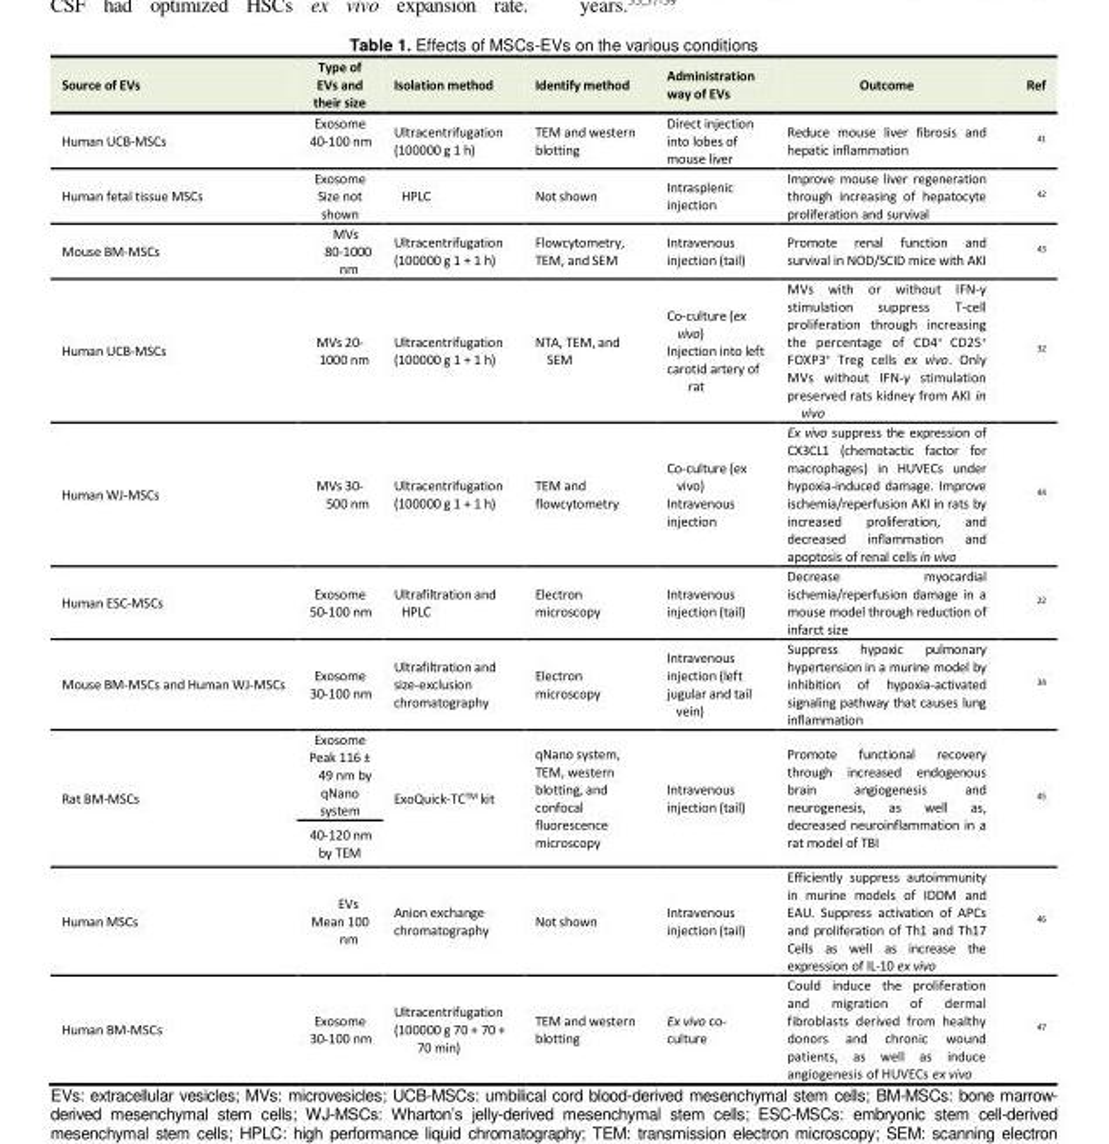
<table><tbody><tr><td>Source of EVs</td><td>Type of EVs and their size</td><td>Isolation method</td><td>Identify method</td><td>Administration way of EVs</td><td>Outcome</td><td>Ref</td></tr><tr><td>Human UCB-MSCs</td><td>Exosome 40-100 nm</td><td>Ultracentrifugation (100000 g 1 h)</td><td>TEM and western blotting</td><td>Direct injection into lobes of mouse liver</td><td>Reduce mouse liver fibrosis and hepatic inflammation</td><td><sup>41</sup></td></tr><tr><td>Human fetal tissue MSCs</td><td>Exosome Size not shown</td><td>HPLC</td><td>Not shown</td><td>Intrasplenic injection</td><td>Improve mouse liver regeneration through increasing of hepatocyte proliferation and survival</td><td><sup>42</sup></td></tr><tr><td>Mouse BM-MSCs</td><td>MVs 80-1000 nm</td><td>Ultracentrifugation (100000 g 1 + 1 h)</td><td>Flowcytometry, TEM, and SEM</td><td>Intravenous injection (tail)</td><td>Promote renal function and survival in NOD/SCID mice with AKI</td><td><sup>43</sup></td></tr><tr><td>Human UCB-MSCs</td><td>MVs 20- 1000 nm</td><td>Ultracentrifugation (100000 g 1 + 1 h)</td><td>NTA, TEM, and SEM</td><td>Co-culture (ex vivo) Injection into left carotid artery of rat</td><td>MVs with or without IFN-γ stimulation suppress T-cell proliferation through increasing the percentage of CD4<sup>+</sup> CD25<sup>+</sup> FOXP3<sup>+</sup> Treg cells ex vivo. Only MVs without IFN-γ stimulation preserved rats kidney from AKI in vivo</td><td><sup>32</sup></td></tr><tr><td>Human WJ-MSCs</td><td>MVs 30- 500 nm</td><td>Ultracentrifugation (100000 g 1 + 1 h)</td><td>TEM and flowcytometry</td><td>Co-culture (ex vivo) Intravenous injection</td><td>Ex vivo suppress the expression of CX3CL1 (chemotactic factor for macrophages) in HUVECs under hypoxia-induced damage. Improve ischemia/reperfusion AKI in rats by increased proliferation, and decreased inflammation and apoptosis of renal cells in vivo</td><td><sup>44</sup></td></tr><tr><td>Human ESC-MSCs</td><td>Exosome 50-100 nm</td><td>Ultrafiltration and HPLC</td><td>Electron microscopy</td><td>Intravenous injection (tail)</td><td>Decrease myocardial ischemia/reperfusion damage in a mouse model through reduction of infarct size</td><td><sup>22</sup></td></tr><tr><td>Mouse BM-MSCs and Human WJ-MSCs</td><td>Exosome 30-100 nm</td><td>Ultrafiltration and size-exclusion chromatography</td><td>Electron microscopy</td><td>Intravenous injection (left jugular and tail vein)</td><td>Suppress hypoxic pulmonary hypertension in a murine model by inhibition of hypoxia-activated signaling pathway that causes lung inflammation</td><td><sup>34</sup></td></tr><tr><td rowspan="2">Rat BM-MSCs</td><td>Exosome Peak 116 ± 49 nm by qNano system</td><td rowspan="2">ExoQuick-TC<sup>TM</sup> kit</td><td rowspan="2">qNano system, TEM, western blotting, and confocal fluorescence microscopy</td><td rowspan="2">Intravenous injection (tail)</td><td rowspan="2">Promote functional recovery through increased endogenous brain angiogenesis and neurogenesis, as well as, decreased neuroinflammation in a rat model of TBI</td><td rowspan="2"><sup>45</sup></td></tr><tr><td>40-120 nm by TEM</td></tr><tr><td>Human MSCs</td><td>EVs Mean 100 nm</td><td>Anion exchange chromatography</td><td>Not shown</td><td>Intravenous injection (tail)</td><td>Efficiently suppress autoimmunity in murine models of IDDM and EAU. Suppress activation of APCs and proliferation of Th1 and Th17 Cells as well as increase the expression of IL-10 ex vivo</td><td><sup>46</sup></td></tr><tr><td>Human BM-MSCs</td><td>Exosome 30-100 nm</td><td>Ultracentrifugation (100000 g 70 + 70 + 70 min)</td><td>TEM and western blotting</td><td>Ex vivo co- culture</td><td>Could induce the proliferation and migration of dermal fibroblasts derived from healthy donors and chronic wound patients, as well as induce angiogenesis of HUVECs ex vivo</td><td><sup>47</sup></td></tr></tbody></table>